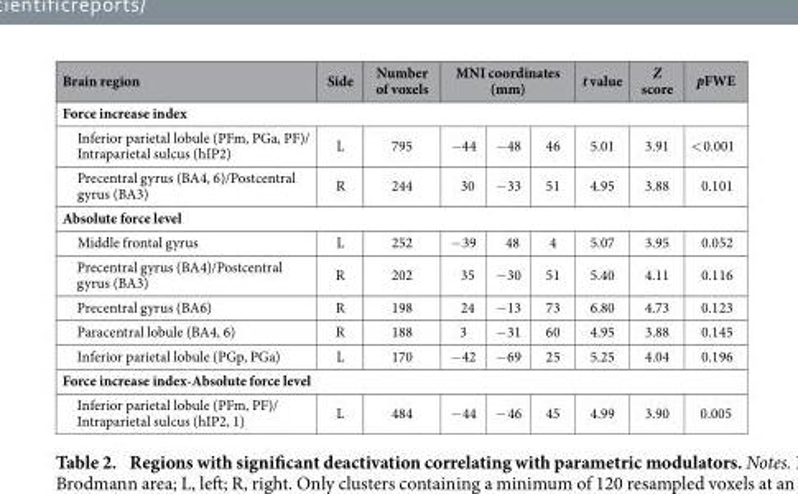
<table><thead><tr><td>Brain region</td><td>Side</td><td>Number of voxels</td><td colspan="3">MNI coordinates (mm)</td><td>t value</td><td>Z score</td><td>pFWE</td></tr><tr><td colspan="9">Force increase index</td></tr><tr><td>Inferior parietal lobule (PFm, PGa, PF)/ Intraparietal sulcus (hIP2)</td><td>L</td><td>795</td><td>−44</td><td>−48</td><td>46</td><td>5.01</td><td>3.91</td><td>&lt; 0.001</td></tr></thead><tbody><tr><td>Precentral gyrus (BA4, 6)/Postcentral gyrus (BA3)</td><td>R</td><td>244</td><td>30</td><td>−33</td><td>51</td><td>4.95</td><td>3.88</td><td>0.101</td></tr><tr><td colspan="9">Absolute force level</td></tr><tr><td>Middle frontal gyrus</td><td>L</td><td>252</td><td>− 39</td><td>48</td><td>4</td><td>5.07</td><td>3.95</td><td>0.052</td></tr><tr><td>Precentral gyrus (BA4)/Postcentral gyrus (BA3)</td><td>R</td><td>202</td><td>35</td><td>−30</td><td>51</td><td>5.40</td><td>4.11</td><td>0.116</td></tr><tr><td>Precentral gyrus (BA6)</td><td>R</td><td>198</td><td>24</td><td>−13</td><td>73</td><td>6.80</td><td>4.73</td><td>0.123</td></tr><tr><td>Paracentral lobule (BA4, 6)</td><td>R</td><td>188</td><td>3</td><td>−31</td><td>60</td><td>4.95</td><td>3.88</td><td>0.145</td></tr><tr><td>Inferior parietal lobule (PGp, PGa)</td><td>L</td><td>170</td><td>−42</td><td>−69</td><td>25</td><td>5.25</td><td>4.04</td><td>0.196</td></tr><tr><td colspan="9">Force increase index-Absolute force level</td></tr><tr><td>Inferior parietal lobule (PFm, PF)/ Intraparietal sulcus (hIP2, 1)</td><td>L</td><td>484</td><td>− 44</td><td>− 46</td><td>45</td><td>4.99</td><td>3.90</td><td>0.005</td></tr></tbody></table>